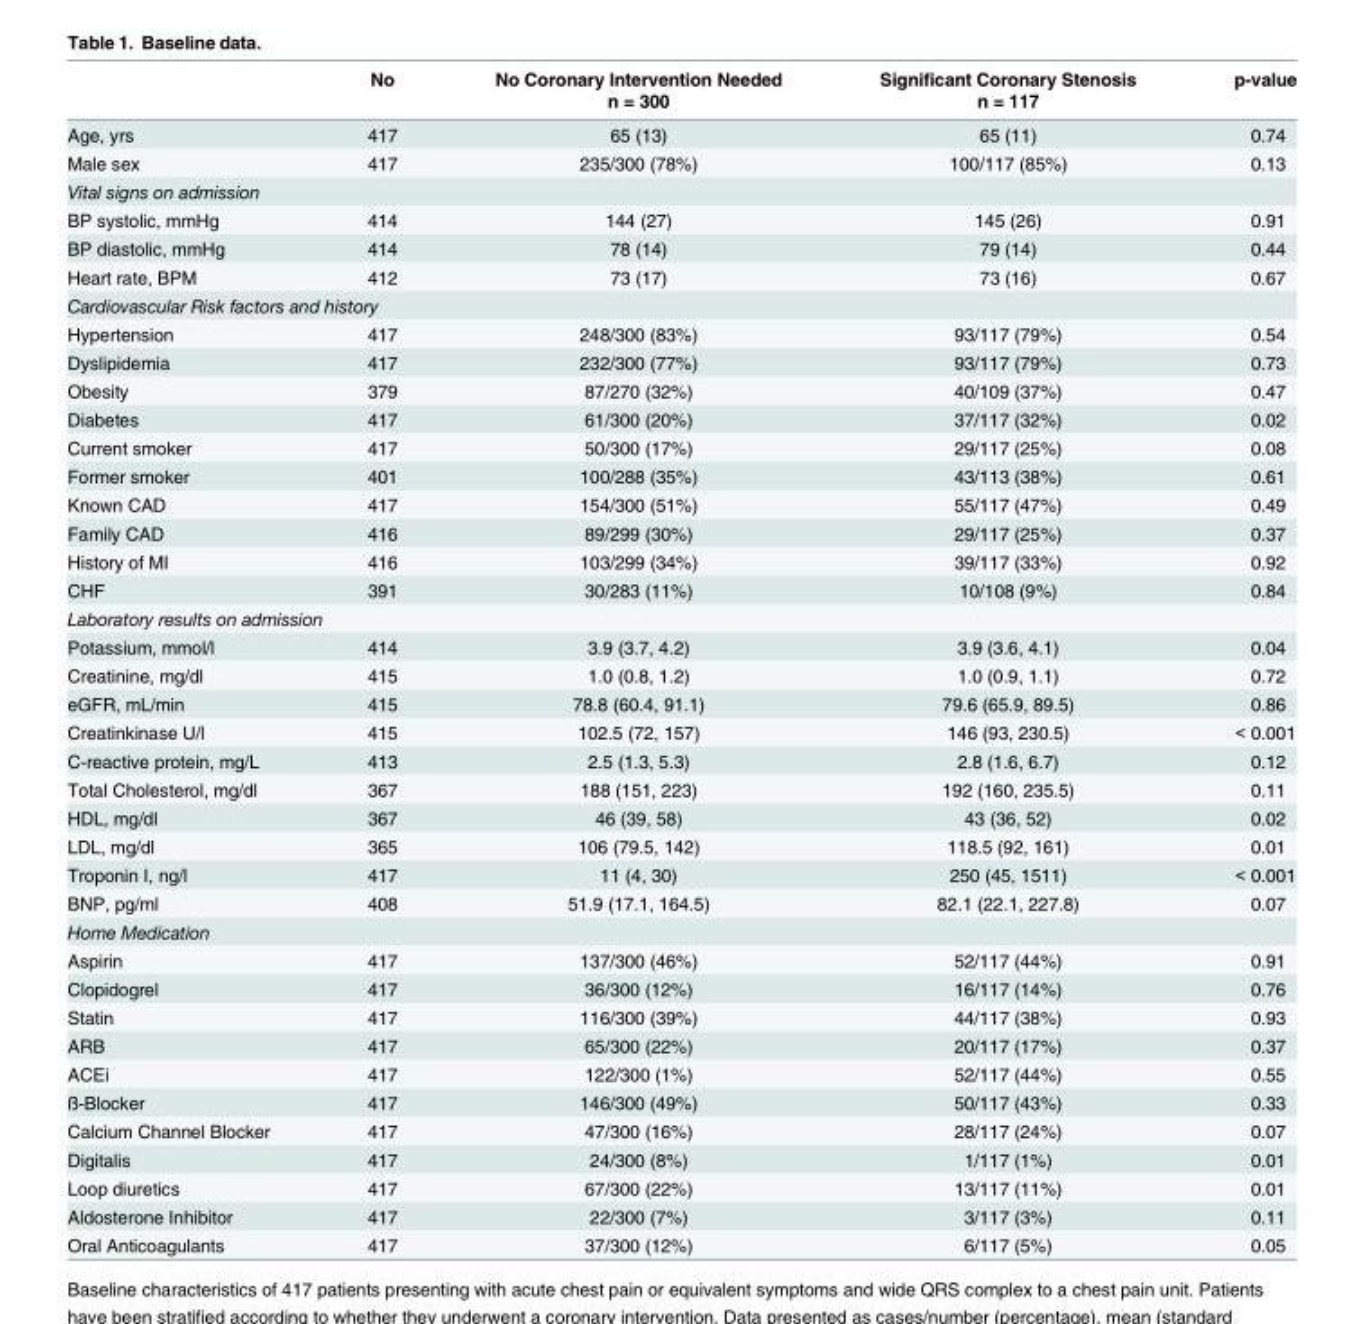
<table><thead><tr><td rowspan="2"></td><td rowspan="2">No</td><td rowspan="2">No Coronary Intervention Needed n = 300</td><td rowspan="2">Significant Coronary Stenosis n = 117</td><td rowspan="2">p-value</td></tr><tr></tr></thead><tbody><tr><td>Age, yrs</td><td>417</td><td>65 (13)</td><td>65 (11)</td><td>0.74</td></tr><tr><td>Male sex</td><td>417</td><td>235/300 (78%)</td><td>100/117 (85%)</td><td>0.13</td></tr><tr><td colspan="5">Vital signs on admission</td></tr><tr><td>BP systolic, mmHg</td><td>414</td><td>144 (27)</td><td>145 (26)</td><td>0.91</td></tr><tr><td>BP diastolic, mmHg</td><td>414</td><td>78 (14)</td><td>79 (14)</td><td>0.44</td></tr><tr><td>Heart rate, BPM</td><td>412</td><td>73 (17)</td><td>73 (16)</td><td>0.67</td></tr><tr><td colspan="5">Cardiovascular Risk factors and history</td></tr><tr><td>Hypertension</td><td>417</td><td>248/300 (83%)</td><td>93/117 (79%)</td><td>0.54</td></tr><tr><td>Dyslipidemia</td><td>417</td><td>232/300 (77%)</td><td>93/117 (79%)</td><td>0.73</td></tr><tr><td>Obesity</td><td>379</td><td>87/270 (32%)</td><td>40/109 (37%)</td><td>0.47</td></tr><tr><td>Diabetes</td><td>417</td><td>61/300 (20%)</td><td>37/117 (32%)</td><td>0.02</td></tr><tr><td>Current smoker</td><td>417</td><td>50/300 (17%)</td><td>29/117 (25%)</td><td>0.08</td></tr><tr><td>Former smoker</td><td>401</td><td>100/288 (35%)</td><td>43/113 (38%)</td><td>0.61</td></tr><tr><td>Known CAD</td><td>417</td><td>154/300 (51%)</td><td>55/117 (47%)</td><td>0.49</td></tr><tr><td>Family CAD</td><td>416</td><td>89/299 (30%)</td><td>29/117 (25%)</td><td>0.37</td></tr><tr><td>History of MI</td><td>416</td><td>103/299 (34%)</td><td>39/117 (33%)</td><td>0.92</td></tr><tr><td>CHF</td><td>391</td><td>30/283 (11%)</td><td>10/108 (9%)</td><td>0.84</td></tr><tr><td colspan="5">Laboratory results on admission</td></tr><tr><td>Potassium, mmol/l</td><td>414</td><td>3.9 (3.7, 4.2)</td><td>3.9 (3.6, 4.1)</td><td>0.04</td></tr><tr><td>Creatinine, mg/dl</td><td>415</td><td>1.0 (0.8, 1.2)</td><td>1.0 (0.9, 1.1)</td><td>0.72</td></tr><tr><td>eGFR, mL/min</td><td>415</td><td>78.8 (60.4, 91.1)</td><td>79.6 (65.9, 89.5)</td><td>0.86</td></tr><tr><td>Creatinkinase U/l</td><td>415</td><td>102.5 (72, 157)</td><td>146 (93, 230.5)</td><td>&lt; 0.001</td></tr><tr><td>C-reactive protein, mg/L</td><td>413</td><td>2.5 (1.3, 5.3)</td><td>2.8 (1.6, 6.7)</td><td>0.12</td></tr><tr><td>Total Cholesterol, mg/dl</td><td>367</td><td>188 (151, 223)</td><td>192 (160, 235.5)</td><td>0.11</td></tr><tr><td>HDL, mg/dl</td><td>367</td><td>46 (39, 58)</td><td>43 (36, 52)</td><td>0.02</td></tr><tr><td>LDL, mg/dl</td><td>365</td><td>106 (79.5, 142)</td><td>118.5 (92, 161)</td><td>0.01</td></tr><tr><td>Troponin I, ng/l</td><td>417</td><td>11 (4, 30)</td><td>250 (45, 1511)</td><td>&lt; 0.001</td></tr><tr><td>BNP, pg/ml</td><td>408</td><td>51.9 (17.1, 164.5)</td><td>82.1 (22.1, 227.8)</td><td>0.07</td></tr><tr><td colspan="5">Home Medication</td></tr><tr><td>Aspirin</td><td>417</td><td>137/300 (46%)</td><td>52/117 (44%)</td><td>0.91</td></tr><tr><td>Clopidogrel</td><td>417</td><td>36/300 (12%)</td><td>16/117 (14%)</td><td>0.76</td></tr><tr><td>Statin</td><td>417</td><td>116/300 (39%)</td><td>44/117 (38%)</td><td>0.93</td></tr><tr><td>ARB</td><td>417</td><td>65/300 (22%)</td><td>20/117 (17%)</td><td>0.37</td></tr><tr><td>ACEi</td><td>417</td><td>122/300 (1%)</td><td>52/117 (44%)</td><td>0.55</td></tr><tr><td>ß-Blocker</td><td>417</td><td>146/300 (49%)</td><td>50/117 (43%)</td><td>0.33</td></tr><tr><td>Calcium Channel Blocker</td><td>417</td><td>47/300 (16%)</td><td>28/117 (24%)</td><td>0.07</td></tr><tr><td>Digitalis</td><td>417</td><td>24/300 (8%)</td><td>1/117 (1%)</td><td>0.01</td></tr><tr><td>Loop diuretics</td><td>417</td><td>67/300 (22%)</td><td>13/117 (11%)</td><td>0.01</td></tr><tr><td>Aldosterone Inhibitor</td><td>417</td><td>22/300 (7%)</td><td>3/117 (3%)</td><td>0.11</td></tr><tr><td>Oral Anticoagulants</td><td>417</td><td>37/300 (12%)</td><td>6/117 (5%)</td><td>0.05</td></tr></tbody></table>